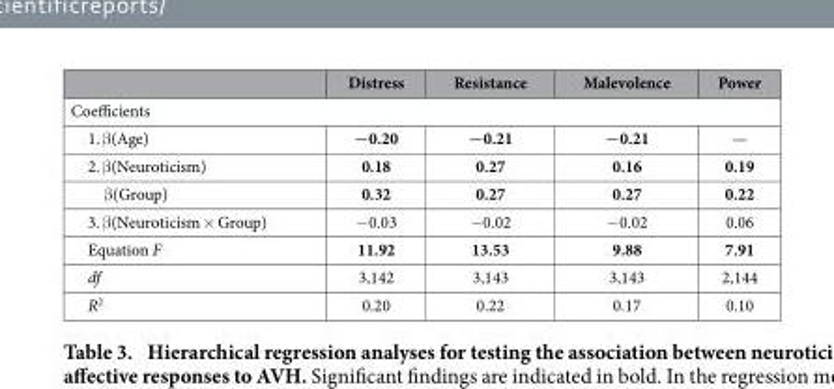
<table><thead><tr><td></td><td>Distress</td><td>Resistance</td><td>Malevolence</td><td>Power</td></tr></thead><tbody><tr><td colspan="5">Coefficients</td></tr><tr><td>1. β (Age)</td><td>−0.20</td><td>−0.21</td><td>−0.21</td><td>—</td></tr><tr><td>2. β (Neuroticism)</td><td>0.18</td><td>0.27</td><td>0.16</td><td>0.19</td></tr><tr><td>β (Group)</td><td>0.32</td><td>0.27</td><td>0.27</td><td>0.22</td></tr><tr><td>3. β (Neuroticism × Group)</td><td>− 0.03</td><td>− 0.02</td><td>− 0.02</td><td>0.06</td></tr><tr><td>Equation F</td><td>11.92</td><td>13.53</td><td>9.88</td><td>7.91</td></tr><tr><td>df</td><td>3,142</td><td>3,143</td><td>3,143</td><td>2,144</td></tr><tr><td>R<sup>2</sup></td><td>0.20</td><td>0.22</td><td>0.17</td><td>0.10</td></tr></tbody></table>